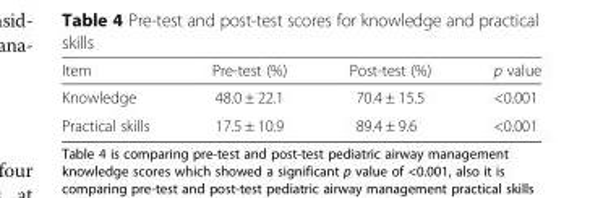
<table><thead><tr><td>Item</td><td>Pre-test (%)</td><td>Post-test (%)</td><td>p value</td></tr></thead><tbody><tr><td>Knowledge</td><td>48.0 ± 22.1</td><td>70.4 ± 15.5</td><td>&lt;0.001</td></tr><tr><td>Practical skills</td><td>17.5 ± 10.9</td><td>89.4 ± 9.6</td><td>&lt;0.001</td></tr></tbody></table>